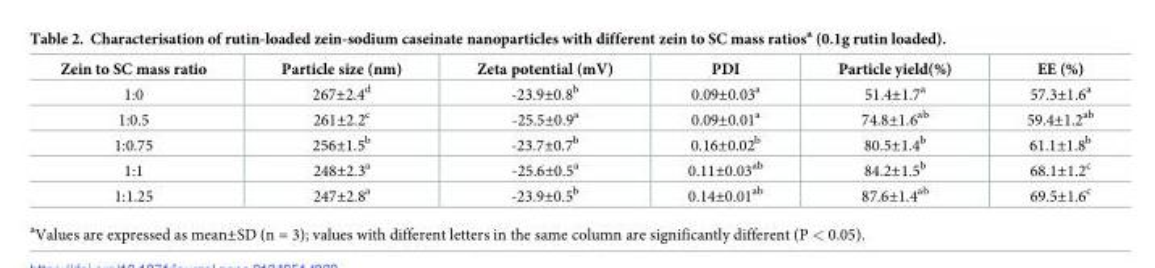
<table><thead><tr><td>Zein to SC mass ratio</td><td>Particle size (nm)</td><td>Zeta potential (mV)</td><td>PDI</td><td>Particle yield(%)</td><td>EE (%)</td></tr></thead><tbody><tr><td>1:0</td><td>267±2.4<sup>d</sup></td><td>-23.9±0.8<sup>b</sup></td><td>0.09±0.03<sup>a</sup></td><td>51.4±1.7<sup>a</sup></td><td>57.3±1.6<sup>a</sup></td></tr><tr><td>1:0.5</td><td>261±2.2<sup>c</sup></td><td>-25.5±0.9<sup>a</sup></td><td>0.09±0.01<sup>a</sup></td><td>74.8±1.6<sup>ab</sup></td><td>59.4±1.2<sup>a</sup>b</td></tr><tr><td>1:0.75</td><td>256±1.5<sup>b</sup></td><td>-23.7±0.7<sup>b</sup></td><td>0.16±0.02<sup>b</sup></td><td>80.5±1.4<sup>b</sup></td><td>61.1±1.8<sup>b</sup></td></tr><tr><td>1:1</td><td>248±2.3<sup>a</sup></td><td>-25.6±0.5<sup>a</sup></td><td>0.11±0.03<sup>ab</sup></td><td>84.2±1.5<sup>b</sup></td><td>68.1±1.2<sup>c</sup></td></tr><tr><td>1:1.25</td><td>247±2.8<sup>a</sup></td><td>-23.9±0.5<sup>b</sup></td><td>0.14±0.01<sup>ab</sup></td><td>87.6±1.4<sup>ab</sup></td><td>69.5±1.6<sup>c</sup></td></tr></tbody></table>